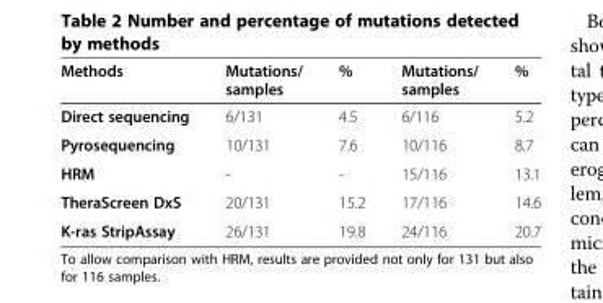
<table><thead><tr><td>Methods</td><td>Mutations/ samples</td><td>%</td><td>Mutations/ samples</td><td>%</td></tr></thead><tbody><tr><td>Direct sequencing</td><td>6/131</td><td>4.5</td><td>6/116</td><td>5.2</td></tr><tr><td>Pyrosequencing</td><td>10/131</td><td>7.6</td><td>10/116</td><td>8.7</td></tr><tr><td>HRM</td><td>-</td><td>-</td><td>15/116</td><td>13.1</td></tr><tr><td>TheraScreen DxS</td><td>20/131</td><td>15.2</td><td>17/116</td><td>14.6</td></tr><tr><td>K-ras StripAssay</td><td>26/131</td><td>19.8</td><td>24/116</td><td>20.7</td></tr></tbody></table>